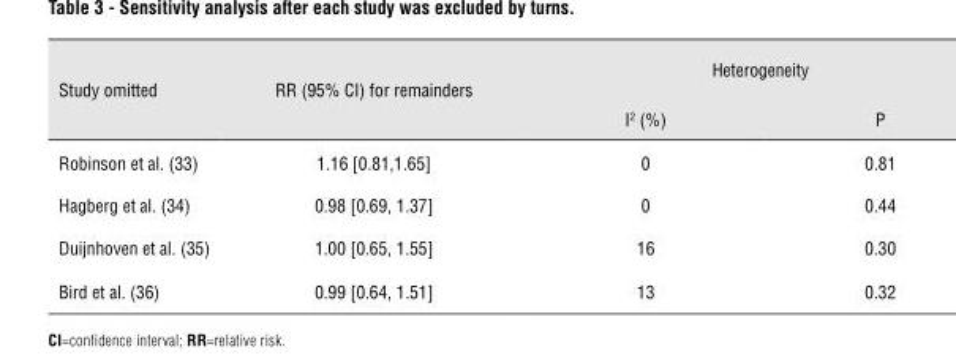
<table><thead><tr><td rowspan="2">Study omitted</td><td rowspan="2">RR (95% CI) for remainders</td><td colspan="2">Heterogeneity</td></tr><tr><td>I<sup>2</sup> (%)</td><td>P</td></tr></thead><tbody><tr><td>Robinson et al. (33)</td><td>1.16 [0.81,1.65]</td><td>0</td><td>0.81</td></tr><tr><td>Hagberg et al. (34)</td><td>0.98 [0.69, 1.37]</td><td>0</td><td>0.44</td></tr><tr><td>Duijnhoven et al. (35)</td><td>1.00 [0.65, 1.55]</td><td>16</td><td>0.30</td></tr><tr><td>Bird et al. (36)</td><td>0.99 [0.64, 1.51]</td><td>13</td><td>0.32</td></tr></tbody></table>